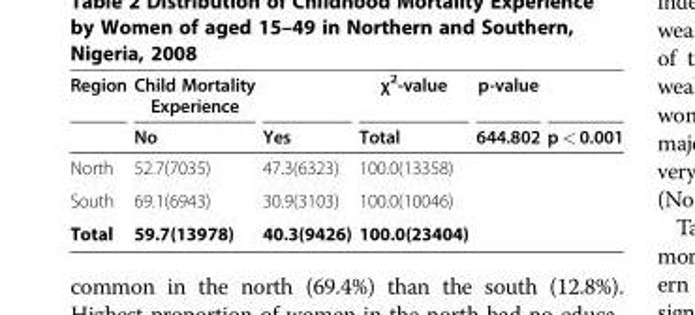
<table><thead><tr><td rowspan="2">Region</td><td rowspan="2">Child Mortality Experience No</td><td rowspan="2">Yes</td><td rowspan="2">χ<sup>2</sup>-value Total</td><td rowspan="2">p-value 644.802</td><td rowspan="2">p &lt; 0.001</td></tr><tr></tr></thead><tbody><tr><td>North</td><td>52.7(7035)</td><td>47.3(6323)</td><td>100.0(13358)</td><td></td><td></td></tr><tr><td>South</td><td>69.1(6943)</td><td>30.9(3103)</td><td>100.0(10046)</td><td></td><td></td></tr><tr><td>Total</td><td>59.7(13978)</td><td>40.3(9426)</td><td>100.0(23404)</td><td></td><td></td></tr></tbody></table>